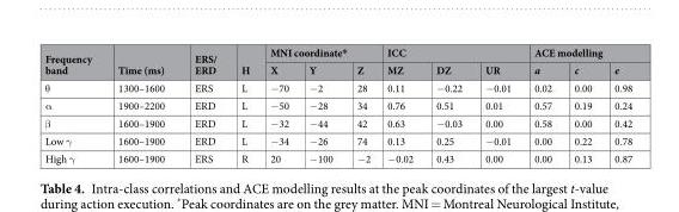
<table><thead><tr><td rowspan="2">Frequency band</td><td rowspan="2">Time (ms)</td><td rowspan="2">ERS/ ERD</td><td rowspan="2">H</td><td colspan="3">MNI coordinate*</td><td colspan="3">ICC</td><td colspan="3">ACE modelling</td></tr><tr><td>X</td><td>Y</td><td>Z</td><td>MZ</td><td>DZ</td><td>UR</td><td>a</td><td>c</td><td>e</td></tr></thead><tbody><tr><td>θ</td><td>1300–1600</td><td>ERS</td><td>L</td><td>−70</td><td>−2</td><td>28</td><td>0.11</td><td>−0.22</td><td>−0.01</td><td>0.02</td><td>0.00</td><td>0.98</td></tr><tr><td>α</td><td>1900–2200</td><td>ERD</td><td>L</td><td>−50</td><td>−28</td><td>34</td><td>0.76</td><td>0.51</td><td>0.01</td><td>0.57</td><td>0.19</td><td>0.24</td></tr><tr><td>β</td><td>1600–1900</td><td>ERD</td><td>L</td><td>−32</td><td>−44</td><td>42</td><td>0.63</td><td>−0.03</td><td>0.00</td><td>0.58</td><td>0.00</td><td>0.42</td></tr><tr><td>Low γ</td><td>1600–1900</td><td>ERD</td><td>L</td><td>−34</td><td>−26</td><td>74</td><td>0.13</td><td>0.25</td><td>−0.01</td><td>0.00</td><td>0.22</td><td>0.78</td></tr><tr><td>High γ</td><td>1600–1900</td><td>ERS</td><td>R</td><td>20</td><td>−100</td><td>−2</td><td>−0.02</td><td>0.43</td><td>0.00</td><td>0.00</td><td>0.13</td><td>0.87</td></tr></tbody></table>